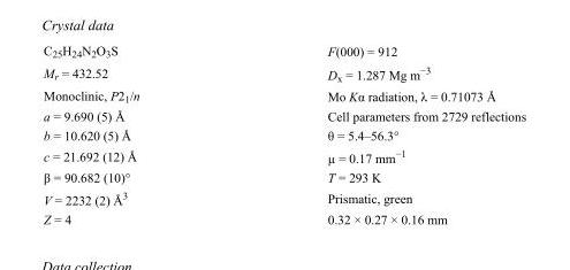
<table><tbody><tr><td>C<sub>25</sub>H<sub>24</sub>N<sub>2</sub>O<sub>3</sub>S</td><td>F(000) = 912</td></tr><tr><td>M<sub>r</sub> = 432.52</td><td>D<sub>x</sub> = 1.287 Mg m<sup>−3</sup></td></tr><tr><td>Monoclinic, P2<sub>1</sub>/n</td><td>Mo Kα radiation, λ = 0.71073 Å</td></tr><tr><td>a = 9.690 (5) Å</td><td>Cell parameters from 2729 reflections</td></tr><tr><td>b = 10.620 (5) Å</td><td>θ = 5.4–56.3°</td></tr><tr><td>c = 21.692 (12) Å</td><td>µ = 0.17 mm<sup>−1</sup></td></tr><tr><td>β = 90.682 (10)°</td><td>T = 293 K</td></tr><tr><td>V = 2232 (2) Å<sup>3</sup></td><td>Prismatic, green</td></tr><tr><td>Z = 4</td><td>0.32 × 0.27 × 0.16 mm</td></tr></tbody></table>